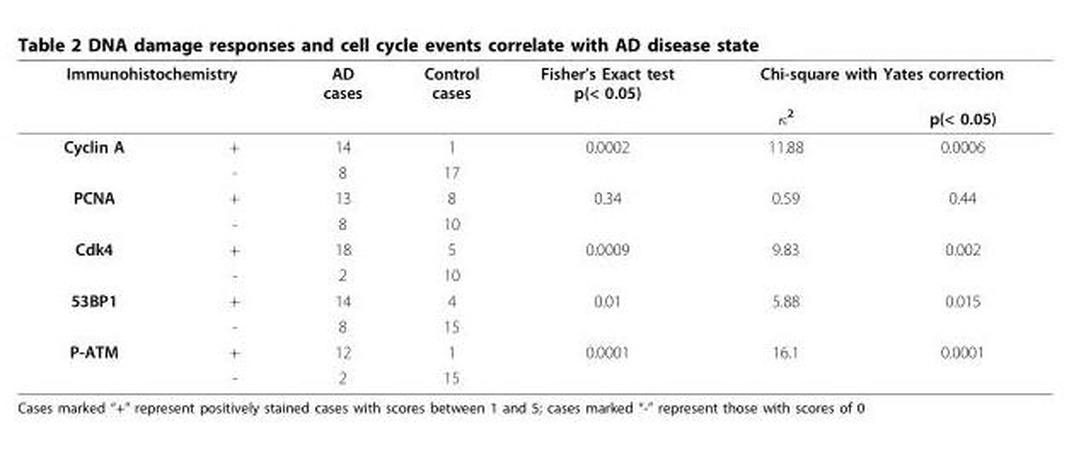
<table><thead><tr><td colspan="2">Immunohistochemistry</td><td rowspan="2">AD cases</td><td rowspan="2">Control cases</td><td rowspan="2">Fisher’s Exact test p(&lt; 0.05)</td><td colspan="2">Chi-square with Yates correction</td></tr><tr><td></td><td></td><td>κ<sup>2</sup></td><td>p(&lt; 0.05)</td></tr></thead><tbody><tr><td rowspan="2">Cyclin A</td><td>+</td><td>14</td><td>1</td><td>0.0002</td><td>11.88</td><td>0.0006</td></tr><tr><td>-</td><td>8</td><td>17</td><td></td><td></td><td></td></tr><tr><td rowspan="2">PCNA</td><td>+</td><td>13</td><td>8</td><td>0.34</td><td>0.59</td><td>0.44</td></tr><tr><td>-</td><td>8</td><td>10</td><td></td><td></td><td></td></tr><tr><td rowspan="2">Cdk4</td><td>+</td><td>18</td><td>5</td><td>0.0009</td><td>9.83</td><td>0.002</td></tr><tr><td>-</td><td>2</td><td>10</td><td></td><td></td><td></td></tr><tr><td rowspan="2">53BP1</td><td>+</td><td>14</td><td>4</td><td>0.01</td><td>5.88</td><td>0.015</td></tr><tr><td>-</td><td>8</td><td>15</td><td></td><td></td><td></td></tr><tr><td rowspan="2">P-ATM</td><td>+</td><td>12</td><td>1</td><td>0.0001</td><td>16.1</td><td>0.0001</td></tr><tr><td>-</td><td>2</td><td>15</td><td></td><td></td><td></td></tr></tbody></table>